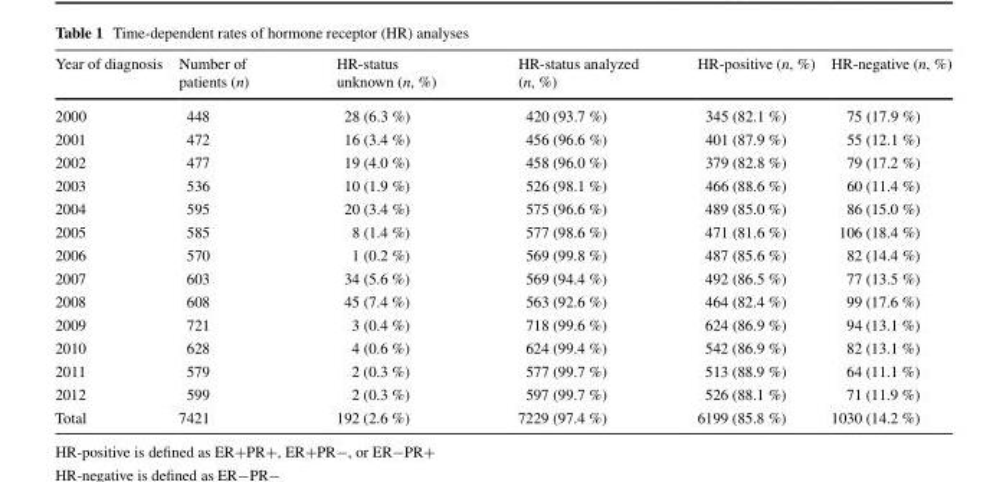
<table><thead><tr><td>Year of diagnosis</td><td>Number of patients (n)</td><td>HR-status unknown (n, %)</td><td>HR-status analyzed (n, %)</td><td>HR-positive (n, %)</td><td>HR-negative (n, %)</td></tr></thead><tbody><tr><td>2000</td><td>448</td><td>28 (6.3 %)</td><td>420 (93.7 %)</td><td>345 (82.1 %)</td><td>75 (17.9 %)</td></tr><tr><td>2001</td><td>472</td><td>16 (3.4 %)</td><td>456 (96.6 %)</td><td>401 (87.9 %)</td><td>55 (12.1 %)</td></tr><tr><td>2002</td><td>477</td><td>19 (4.0 %)</td><td>458 (96.0 %)</td><td>379 (82.8 %)</td><td>79 (17.2 %)</td></tr><tr><td>2003</td><td>536</td><td>10 (1.9 %)</td><td>526 (98.1 %)</td><td>466 (88.6 %)</td><td>60 (11.4 %)</td></tr><tr><td>2004</td><td>595</td><td>20 (3.4 %)</td><td>575 (96.6 %)</td><td>489 (85.0 %)</td><td>86 (15.0 %)</td></tr><tr><td>2005</td><td>585</td><td>8 (1.4 %)</td><td>577 (98.6 %)</td><td>471 (81.6 %)</td><td>106 (18.4 %)</td></tr><tr><td>2006</td><td>570</td><td>1 (0.2 %)</td><td>569 (99.8 %)</td><td>487 (85.6 %)</td><td>82 (14.4 %)</td></tr><tr><td>2007</td><td>603</td><td>34 (5.6 %)</td><td>569 (94.4 %)</td><td>492 (86.5 %)</td><td>77 (13.5 %)</td></tr><tr><td>2008</td><td>608</td><td>45 (7.4 %)</td><td>563 (92.6 %)</td><td>464 (82.4 %)</td><td>99 (17.6 %)</td></tr><tr><td>2009</td><td>721</td><td>3 (0.4 %)</td><td>718 (99.6 %)</td><td>624 (86.9 %)</td><td>94 (13.1 %)</td></tr><tr><td>2010</td><td>628</td><td>4 (0.6 %)</td><td>624 (99.4 %)</td><td>542 (86.9 %)</td><td>82 (13.1 %)</td></tr><tr><td>2011</td><td>579</td><td>2 (0.3 %)</td><td>577 (99.7 %)</td><td>513 (88.9 %)</td><td>64 (11.1 %)</td></tr><tr><td>2012</td><td>599</td><td>2 (0.3 %)</td><td>597 (99.7 %)</td><td>526 (88.1 %)</td><td>71 (11.9 %)</td></tr><tr><td>Total</td><td>7421</td><td>192 (2.6 %)</td><td>7229 (97.4 %)</td><td>6199 (85.8 %)</td><td>1030 (14.2 %)</td></tr></tbody></table>